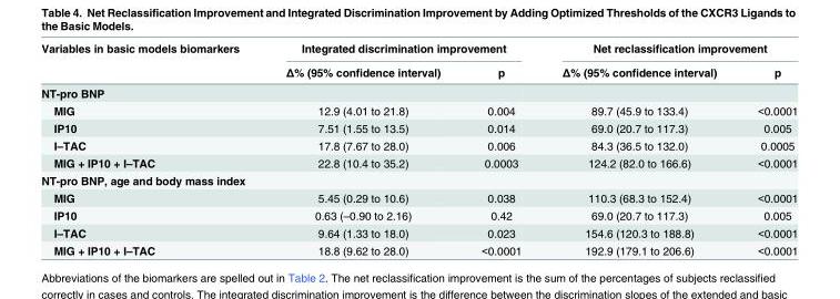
<table><thead><tr><td rowspan="2">Variables in basic models biomarkers</td><td colspan="2">Integrated discrimination improvement</td><td colspan="2">Net reclassification improvement</td></tr><tr><td>Δ% (95% confidence interval)</td><td>p</td><td>Δ% (95% confidence interval)</td><td>p</td></tr></thead><tbody><tr><td colspan="5">NT-pro BNP</td></tr><tr><td>MIG</td><td>12.9 (4.01 to 21.8)</td><td>0.004</td><td>89.7 (45.9 to 133.4)</td><td>&lt;0.0001</td></tr><tr><td>IP10</td><td>7.51 (1.55 to 13.5)</td><td>0.014</td><td>69.0 (20.7 to 117.3)</td><td>0.005</td></tr><tr><td>I–TAC</td><td>17.8 (7.67 to 28.0)</td><td>0.006</td><td>84.3 (36.5 to 132.0)</td><td>0.0005</td></tr><tr><td>MIG + IP10 + I–TAC</td><td>22.8 (10.4 to 35.2)</td><td>0.0003</td><td>124.2 (82.0 to 166.6)</td><td>&lt;0.0001</td></tr><tr><td colspan="5">NT-pro BNP, age and body mass index</td></tr><tr><td>MIG</td><td>5.45 (0.29 to 10.6)</td><td>0.038</td><td>110.3 (68.3 to 152.4)</td><td>&lt;0.0001</td></tr><tr><td>IP10</td><td>0.63 (–0.90 to 2.16)</td><td>0.42</td><td>69.0 (20.7 to 117.3)</td><td>0.005</td></tr><tr><td>I–TAC</td><td>9.64 (1.33 to 18.0)</td><td>0.023</td><td>154.6 (120.3 to 188.8)</td><td>&lt;0.0001</td></tr><tr><td>MIG + IP10 + I–TAC</td><td>18.8 (9.62 to 28.0)</td><td>&lt;0.0001</td><td>192.9 (179.1 to 206.6)</td><td>&lt;0.0001</td></tr></tbody></table>